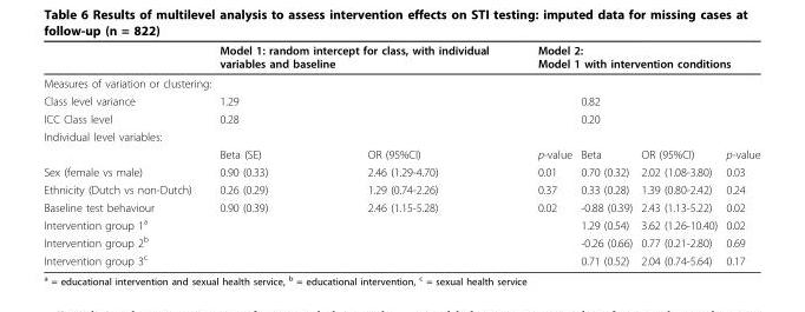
<table><thead><tr><td rowspan="2">Measures of variation or clustering:</td><td colspan="2">Model 1: random intercept for class, with individual variables and baseline</td><td colspan="4">Model 2: Model 1 with intervention conditions</td></tr><tr><td></td><td></td><td></td><td></td><td></td><td></td></tr></thead><tbody><tr><td>Class level variance</td><td>1.29</td><td></td><td></td><td>0.82</td><td></td><td></td></tr><tr><td>ICC Class level</td><td>0.28</td><td></td><td></td><td>0.20</td><td></td><td></td></tr><tr><td colspan="7">Individual level variables:</td></tr><tr><td></td><td>Beta (SE)</td><td>OR (95%CI)</td><td>p-value</td><td>Beta</td><td>OR (95%CI)</td><td>p-value</td></tr><tr><td>Sex (female vs male)</td><td>0.90 (0.33)</td><td>2.46 (1.29-4.70)</td><td>0.01</td><td>0.70 (0.32)</td><td>2.02 (1.08-3.80)</td><td>0.03</td></tr><tr><td>Ethnicity (Dutch vs non-Dutch)</td><td>0.26 (0.29)</td><td>1.29 (0.74-2.26)</td><td>0.37</td><td>0.33 (0.28)</td><td>1.39 (0.80-2.42)</td><td>0.24</td></tr><tr><td>Baseline test behaviour</td><td>0.90 (0.39)</td><td>2.46 (1.15-5.28)</td><td>0.02</td><td>-0.88 (0.39)</td><td>2.43 (1.13-5.22)</td><td>0.02</td></tr><tr><td>Intervention group 1<sup>a</sup></td><td></td><td></td><td></td><td>1.29 (0.54)</td><td>3.62 (1.26-10.40)</td><td>0.02</td></tr><tr><td>Intervention group 2<sup>b</sup></td><td></td><td></td><td></td><td>-0.26 (0.66)</td><td>0.77 (0.21-2.80)</td><td>0.69</td></tr><tr><td>Intervention group 3<sup>c</sup></td><td></td><td></td><td></td><td>0.71 (0.52)</td><td>2.04 (0.74-5.64)</td><td>0.17</td></tr></tbody></table>